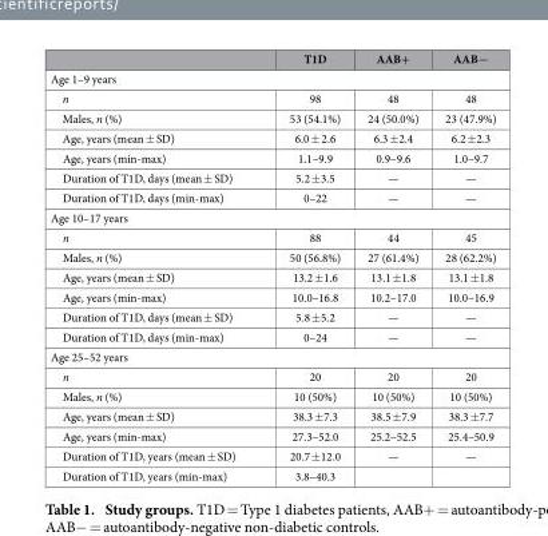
<table><thead><tr><td></td><td>T1D</td><td>AAB+</td><td>AAB−</td></tr></thead><tbody><tr><td colspan="4">Age 1–9 years</td></tr><tr><td>n</td><td>98</td><td>48</td><td>48</td></tr><tr><td>Males, n (%)</td><td>53 (54.1%)</td><td>24 (50.0%)</td><td>23 (47.9%)</td></tr><tr><td>Age, years (mean ± SD)</td><td>6.0 ± 2.6</td><td>6.3 ± 2.4</td><td>6.2 ± 2.3</td></tr><tr><td>Age, years (min-max)</td><td>1.1–9.9</td><td>0.9–9.6</td><td>1.0–9.7</td></tr><tr><td>Duration of T1D, days (mean ± SD)</td><td>5.2 ± 3.5</td><td>—</td><td>—</td></tr><tr><td>Duration of T1D, days (min-max)</td><td>0–22</td><td>—</td><td>—</td></tr><tr><td colspan="4">Age 10–17 years</td></tr><tr><td>n</td><td>88</td><td>44</td><td>45</td></tr><tr><td>Males, n (%)</td><td>50 (56.8%)</td><td>27 (61.4%)</td><td>28 (62.2%)</td></tr><tr><td>Age, years (mean ± SD)</td><td>13.2 ± 1.6</td><td>13.1 ± 1.8</td><td>13.1 ± 1.8</td></tr><tr><td>Age, years (min-max)</td><td>10.0–16.8</td><td>10.2–17.0</td><td>10.0–16.9</td></tr><tr><td>Duration of T1D, days (mean ± SD)</td><td>5.8 ± 5.2</td><td>—</td><td>—</td></tr><tr><td>Duration of T1D, days (min-max)</td><td>0–24</td><td>—</td><td>—</td></tr><tr><td colspan="4">Age 25–52 years</td></tr><tr><td>n</td><td>20</td><td>20</td><td>20</td></tr><tr><td>Males, n (%)</td><td>10 (50%)</td><td>10 (50%)</td><td>10 (50%)</td></tr><tr><td>Age, years (mean ± SD)</td><td>38.3 ± 7.3</td><td>38.5 ± 7.9</td><td>38.3 ± 7.7</td></tr><tr><td>Age, years (min-max)</td><td>27.3–52.0</td><td>25.2–52.5</td><td>25.4–50.9</td></tr><tr><td>Duration of T1D, years (mean ± SD)</td><td>20.7 ± 12.0</td><td>—</td><td>—</td></tr><tr><td>Duration of T1D, years (min-max)</td><td>3.8–40.3</td><td></td><td></td></tr></tbody></table>